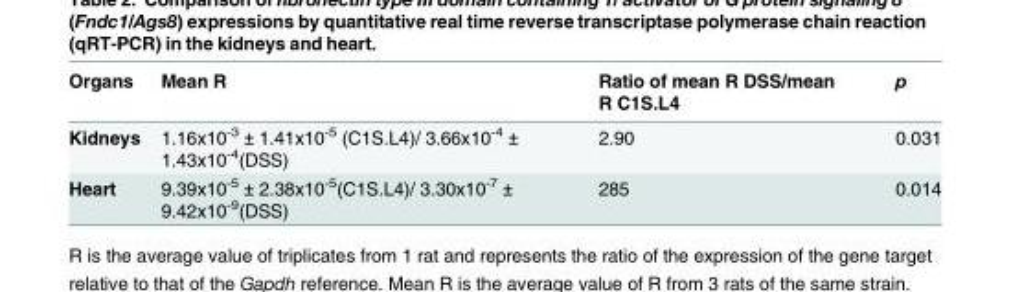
<table><thead><tr><td>Organs</td><td>Mean R</td><td>Ratio of mean R DSS/mean R C1S.L4</td><td>p</td></tr></thead><tbody><tr><td>Kidneys</td><td>1.16x10<sup>-3</sup> ± 1.41x10<sup>-5</sup> (C1S.L4)/ 3.66x10<sup>-4</sup> ± 1.43x10<sup>-4</sup>(DSS)</td><td>2.90</td><td>0.031</td></tr><tr><td>Heart</td><td>9.39x10<sup>-5</sup> ± 2.38x10<sup>-5</sup>(C1S.L4)/ 3.30x10<sup>-7</sup> ± 9.42x10<sup>-9</sup>(DSS)</td><td>285</td><td>0.014</td></tr></tbody></table>